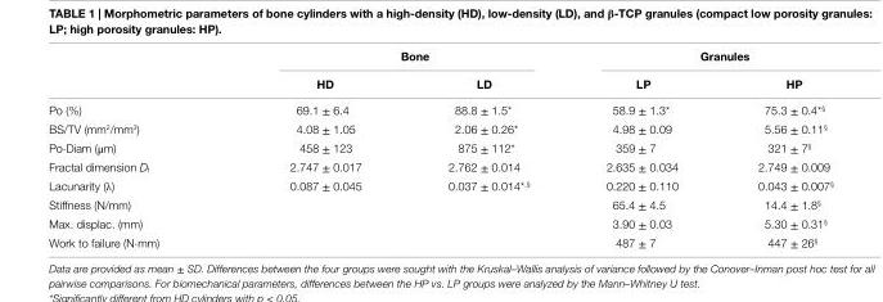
<table><thead><tr><td rowspan="2"></td><td colspan="2">Bone</td><td colspan="2">granules</td></tr><tr><td>hD</td><td>lD</td><td>lP</td><td>hP</td></tr></thead><tbody><tr><td>Po (%)</td><td>69.1 ± 6.4</td><td>88.8 ± 1.5*</td><td>58.9 ± 1.3*</td><td>75.3 ± 0.4*<sup>§</sup></td></tr><tr><td>BS/TV (mm<sup>2</sup>/mm<sup>3</sup>)</td><td>4.08 ± 1.05</td><td>2.06 ± 0.26*</td><td>4.98 ± 0.09</td><td>5.56 ± 0.11<sup>§</sup></td></tr><tr><td>Po⋅Diam (μm)</td><td>458 ± 123</td><td>875 ± 112*</td><td>359 ± 7</td><td>321 ± 7<sup>§</sup></td></tr><tr><td>Fractal dimension D<sub>f</sub></td><td>2.747 ± 0.017</td><td>2.762 ± 0.014</td><td>2.635 ± 0.034</td><td>2.749 ± 0.009</td></tr><tr><td>Lacunarity (λ)</td><td>0.087 ± 0.045</td><td>0.037 ± 0.014*<sup>,§</sup></td><td>0.220 ± 0.110</td><td>0.043 ± 0.007<sup>§</sup></td></tr><tr><td>Stiffness (N/mm)</td><td></td><td></td><td>65.4 ± 4.5</td><td>14.4 ± 1.8<sup>§</sup></td></tr><tr><td>Max. displac. (mm)</td><td></td><td></td><td>3.90 ± 0.03</td><td>5.30 ± 0.31<sup>§</sup></td></tr><tr><td>Work to failure (N⋅mm)</td><td></td><td></td><td>487 ± 7</td><td>447 ± 26<sup>§</sup></td></tr></tbody></table>